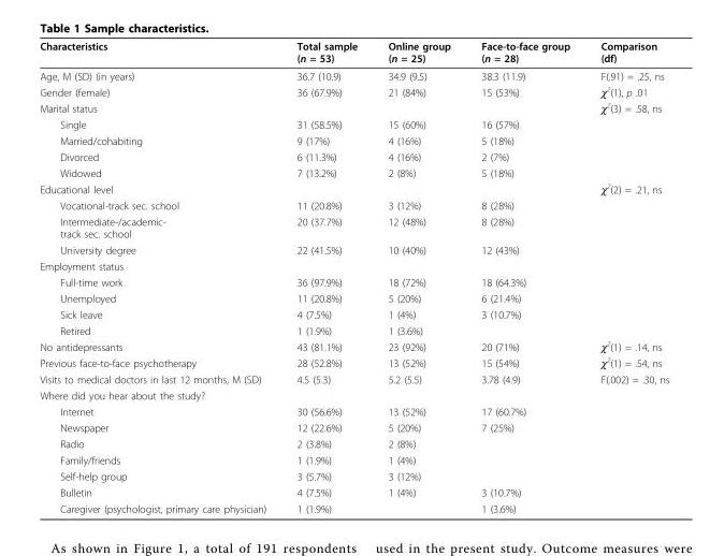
<table><thead><tr><td>Characteristics</td><td>Total sample (n = 53)</td><td>Online group (n = 25)</td><td>Face-to-face group (n = 28)</td><td>Comparison (df)</td></tr></thead><tbody><tr><td>Age, M (SD) (in years)</td><td>36.7 (10.9)</td><td>34.9 (9.5)</td><td>38.3 (11.9)</td><td>F(.91) = .25, ns</td></tr><tr><td>Gender (female)</td><td>36 (67.9%)</td><td>21 (84%)</td><td>15 (53%)</td><td>χ<sup>2</sup>(1), p .01</td></tr><tr><td>Marital status</td><td></td><td></td><td></td><td>χ<sup>2</sup>(3) = .58, ns</td></tr><tr><td>Single</td><td>31 (58.5%)</td><td>15 (60%)</td><td>16 (57%)</td><td></td></tr><tr><td>Married/cohabiting</td><td>9 (17%)</td><td>4 (16%)</td><td>5 (18%)</td><td></td></tr><tr><td>Divorced</td><td>6 (11.3%)</td><td>4 (16%)</td><td>2 (7%)</td><td></td></tr><tr><td>Widowed</td><td>7 (13.2%)</td><td>2 (8%)</td><td>5 (18%)</td><td></td></tr><tr><td>Educational level</td><td></td><td></td><td></td><td>χ<sup>2</sup>(2) = .21, ns</td></tr><tr><td>Vocational-track sec. school</td><td>11 (20.8%)</td><td>3 (12%)</td><td>8 (28%)</td><td></td></tr><tr><td>Intermediate-/academic- track sec. school</td><td>20 (37.7%)</td><td>12 (48%)</td><td>8 (28%)</td><td></td></tr><tr><td>University degree</td><td>22 (41.5%)</td><td>10 (40%)</td><td>12 (43%)</td><td></td></tr><tr><td colspan="5">Employment status</td></tr><tr><td>Full-time work</td><td>36 (97.9%)</td><td>18 (72%)</td><td>18 (64.3%)</td><td></td></tr><tr><td>Unemployed</td><td>11 (20.8%)</td><td>5 (20%)</td><td>6 (21.4%)</td><td></td></tr><tr><td>Sick leave</td><td>4 (7.5%)</td><td>1 (4%)</td><td>3 (10.7%)</td><td></td></tr><tr><td>Retired</td><td>1 (1.9%)</td><td>1 (3.6%)</td><td></td><td></td></tr><tr><td>No antidepressants</td><td>43 (81.1%)</td><td>23 (92%)</td><td>20 (71%)</td><td>χ<sup>2</sup>(1) = .14, ns</td></tr><tr><td>Previous face-to-face psychotherapy</td><td>28 (52.8%)</td><td>13 (52%)</td><td>15 (54%)</td><td>χ<sup>2</sup>(1) = .54, ns</td></tr><tr><td>Visits to medical doctors in last 12 months, M (SD)</td><td>4.5 (5.3)</td><td>5.2 (5.5)</td><td>3.78 (4.9)</td><td>F(.002) = .30, ns</td></tr><tr><td colspan="5">Where did you hear about the study?</td></tr><tr><td>Internet</td><td>30 (56.6%)</td><td>13 (52%)</td><td>17 (60.7%)</td><td></td></tr><tr><td>Newspaper</td><td>12 (22.6%)</td><td>5 (20%)</td><td>7 (25%)</td><td></td></tr><tr><td>Radio</td><td>2 (3.8%)</td><td>2 (8%)</td><td></td><td></td></tr><tr><td>Family/friends</td><td>1 (1.9%)</td><td>1 (4%)</td><td></td><td></td></tr><tr><td>Self-help group</td><td>3 (5.7%)</td><td>3 (12%)</td><td></td><td></td></tr><tr><td>Bulletin</td><td>4 (7.5%)</td><td>1 (4%)</td><td>3 (10.7%)</td><td></td></tr><tr><td>Caregiver (psychologist, primary care physician)</td><td>1 (1.9%)</td><td></td><td>1 (3.6%)</td><td></td></tr></tbody></table>